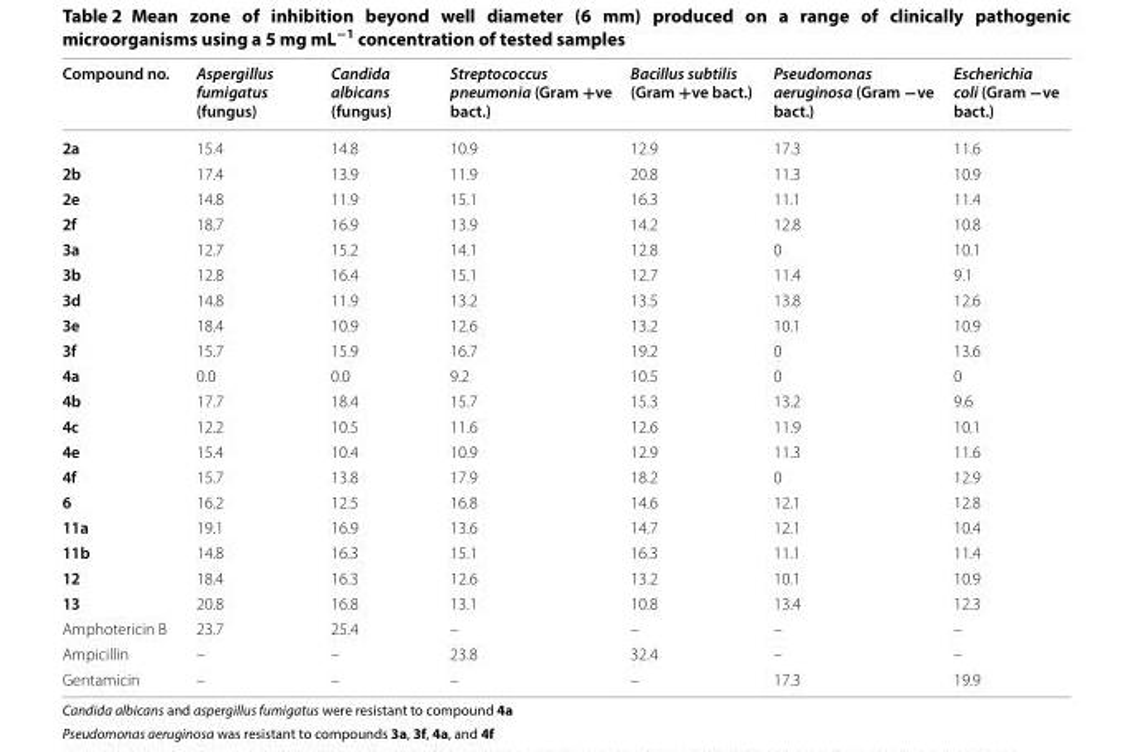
<table><thead><tr><td>Compound no.</td><td>Aspergillus fumigatus (fungus)</td><td>Candida albicans (fungus)</td><td>Streptococcus pneumonia (Gram +ve bact.)</td><td>Bacillus subtilis (Gram +ve bact.)</td><td>Pseudomonas aeruginosa (Gram −ve bact.)</td><td>Escherichia coli (Gram −ve bact.)</td></tr></thead><tbody><tr><td>2a</td><td>15.4</td><td>14.8</td><td>10.9</td><td>12.9</td><td>17.3</td><td>11.6</td></tr><tr><td>2b</td><td>17.4</td><td>13.9</td><td>11.9</td><td>20.8</td><td>11.3</td><td>10.9</td></tr><tr><td>2e</td><td>14.8</td><td>11.9</td><td>15.1</td><td>16.3</td><td>11.1</td><td>11.4</td></tr><tr><td>2f</td><td>18.7</td><td>16.9</td><td>13.9</td><td>14.2</td><td>12.8</td><td>10.8</td></tr><tr><td>3a</td><td>12.7</td><td>15.2</td><td>14.1</td><td>12.8</td><td>0</td><td>10.1</td></tr><tr><td>3b</td><td>12.8</td><td>16.4</td><td>15.1</td><td>12.7</td><td>11.4</td><td>9.1</td></tr><tr><td>3d</td><td>14.8</td><td>11.9</td><td>13.2</td><td>13.5</td><td>13.8</td><td>12.6</td></tr><tr><td>3e</td><td>18.4</td><td>10.9</td><td>12.6</td><td>13.2</td><td>10.1</td><td>10.9</td></tr><tr><td>3f</td><td>15.7</td><td>15.9</td><td>16.7</td><td>19.2</td><td>0</td><td>13.6</td></tr><tr><td>4a</td><td>0.0</td><td>0.0</td><td>9.2</td><td>10.5</td><td>0</td><td>0</td></tr><tr><td>4b</td><td>17.7</td><td>18.4</td><td>15.7</td><td>15.3</td><td>13.2</td><td>9.6</td></tr><tr><td>4c</td><td>12.2</td><td>10.5</td><td>11.6</td><td>12.6</td><td>11.9</td><td>10.1</td></tr><tr><td>4e</td><td>15.4</td><td>10.4</td><td>10.9</td><td>12.9</td><td>11.3</td><td>11.6</td></tr><tr><td>4f</td><td>15.7</td><td>13.8</td><td>17.9</td><td>18.2</td><td>0</td><td>12.9</td></tr><tr><td>6</td><td>16.2</td><td>12.5</td><td>16.8</td><td>14.6</td><td>12.1</td><td>12.8</td></tr><tr><td>11a</td><td>19.1</td><td>16.9</td><td>13.6</td><td>14.7</td><td>12.1</td><td>10.4</td></tr><tr><td>11b</td><td>14.8</td><td>16.3</td><td>15.1</td><td>16.3</td><td>11.1</td><td>11.4</td></tr><tr><td>12</td><td>18.4</td><td>16.3</td><td>12.6</td><td>13.2</td><td>10.1</td><td>10.9</td></tr><tr><td>13</td><td>20.8</td><td>16.8</td><td>13.1</td><td>10.8</td><td>13.4</td><td>12.3</td></tr><tr><td>Amphotericin B</td><td>23.7</td><td>25.4</td><td>–</td><td>–</td><td>–</td><td>–</td></tr><tr><td>Ampicillin</td><td>–</td><td>–</td><td>23.8</td><td>32.4</td><td>–</td><td>–</td></tr><tr><td>Gentamicin</td><td>–</td><td>–</td><td>–</td><td>–</td><td>17.3</td><td>19.9</td></tr></tbody></table>